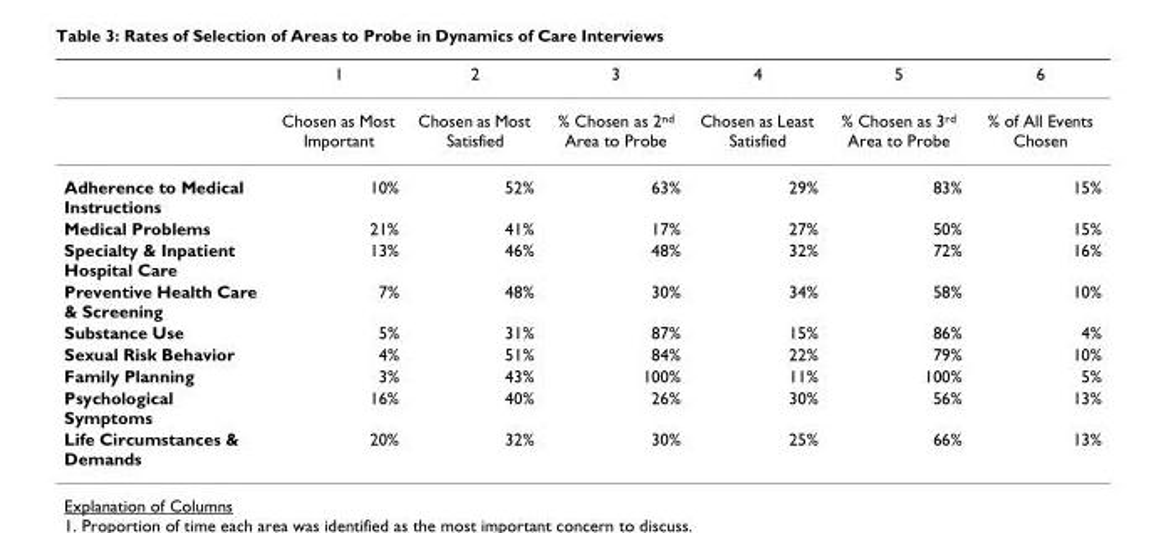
<table><thead><tr><td></td><td>1</td><td>2</td><td>3</td><td>4</td><td>5</td><td>6</td></tr></thead><tbody><tr><td></td><td>Chosen as Most Important</td><td>Chosen as Most Satisfied</td><td>% Chosen as 2<sup>nd</sup> Area to Probe</td><td>Chosen as Least Satisfied</td><td>% Chosen as 3<sup>rd</sup> Area to Probe</td><td>% of All Events Chosen</td></tr><tr><td>Adherence to Medical Instructions</td><td>10%</td><td>52%</td><td>63%</td><td>29%</td><td>83%</td><td>15%</td></tr><tr><td>Medical Problems</td><td>21%</td><td>41%</td><td>17%</td><td>27%</td><td>50%</td><td>15%</td></tr><tr><td>Specialty &amp; Inpatient Hospital Care</td><td>13%</td><td>46%</td><td>48%</td><td>32%</td><td>72%</td><td>16%</td></tr><tr><td>Preventive Health Care &amp; Screening</td><td>7%</td><td>48%</td><td>30%</td><td>34%</td><td>58%</td><td>10%</td></tr><tr><td>Substance Use</td><td>5%</td><td>31%</td><td>87%</td><td>15%</td><td>86%</td><td>4%</td></tr><tr><td>Sexual Risk Behavior</td><td>4%</td><td>51%</td><td>84%</td><td>22%</td><td>79%</td><td>10%</td></tr><tr><td>Family Planning</td><td>3%</td><td>43%</td><td>100%</td><td>11%</td><td>100%</td><td>5%</td></tr><tr><td>Psychological Symptoms</td><td>16%</td><td>40%</td><td>26%</td><td>30%</td><td>56%</td><td>13%</td></tr><tr><td>Life Circumstances &amp; Demands</td><td>20%</td><td>32%</td><td>30%</td><td>25%</td><td>66%</td><td>13%</td></tr></tbody></table>